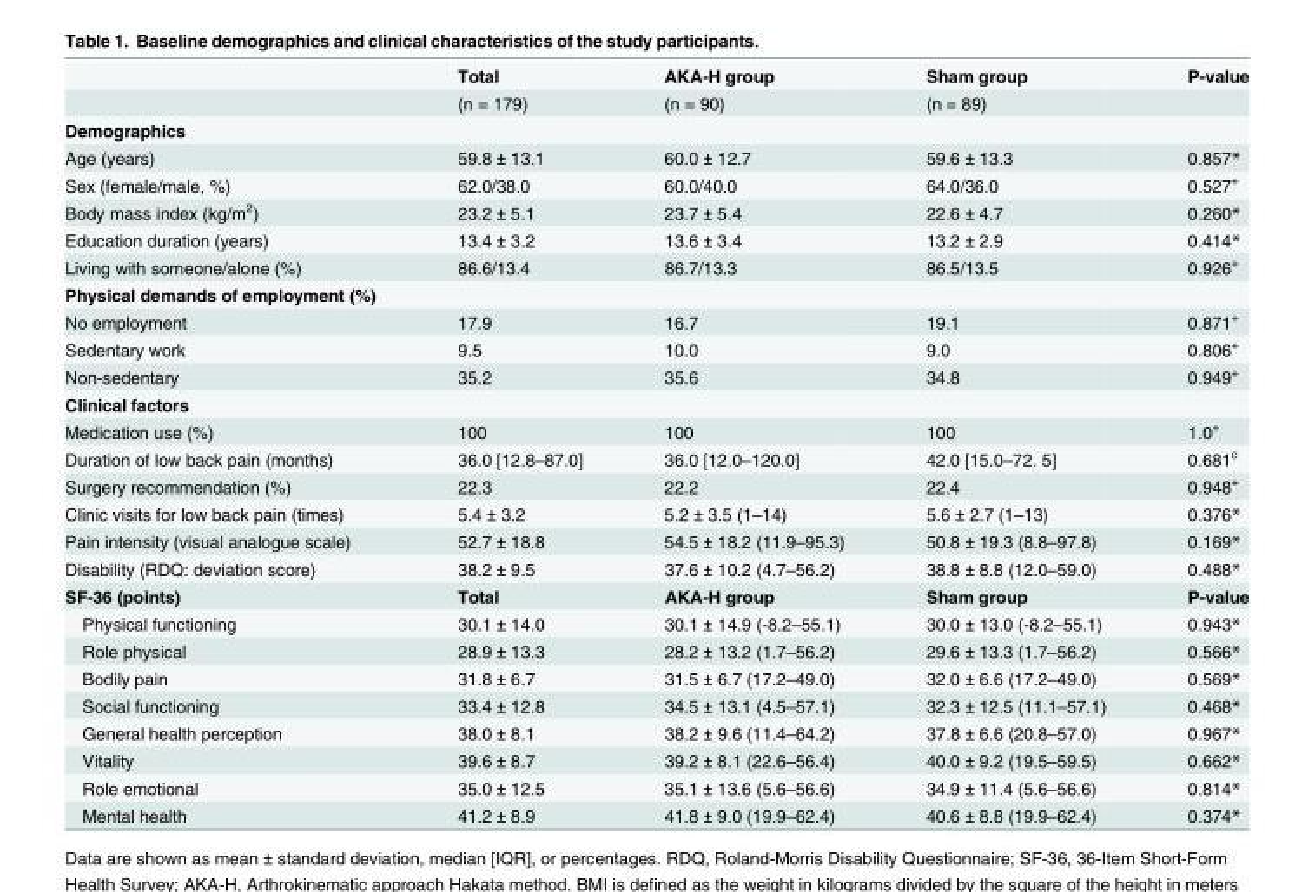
<table><thead><tr><td></td><td>Total</td><td>AKA-H group</td><td>Sham group</td><td>P-value</td></tr></thead><tbody><tr><td></td><td>(n = 179)</td><td>(n = 90)</td><td>(n = 89)</td><td></td></tr><tr><td colspan="5">Demographics</td></tr><tr><td>Age (years)</td><td>59.8 ± 13.1</td><td>60.0 ± 12.7</td><td>59.6 ± 13.3</td><td>0.857*</td></tr><tr><td>Sex (female/male, %)</td><td>62.0/38.0</td><td>60.0/40.0</td><td>64.0/36.0</td><td>0.527<sup>+</sup></td></tr><tr><td>Body mass index (kg/m<sup>2</sup>)</td><td>23.2 ± 5.1</td><td>23.7 ± 5.4</td><td>22.6 ± 4.7</td><td>0.260*</td></tr><tr><td>Education duration (years)</td><td>13.4 ± 3.2</td><td>13.6 ± 3.4</td><td>13.2 ± 2.9</td><td>0.414*</td></tr><tr><td>Living with someone/alone (%)</td><td>86.6/13.4</td><td>86.7/13.3</td><td>86.5/13.5</td><td>0.926<sup>+</sup></td></tr><tr><td colspan="5">Physical demands of employment (%)</td></tr><tr><td>No employment</td><td>17.9</td><td>16.7</td><td>19.1</td><td>0.871<sup>+</sup></td></tr><tr><td>Sedentary work</td><td>9.5</td><td>10.0</td><td>9.0</td><td>0.806<sup>+</sup></td></tr><tr><td>Non-sedentary</td><td>35.2</td><td>35.6</td><td>34.8</td><td>0.949<sup>+</sup></td></tr><tr><td colspan="5">Clinical factors</td></tr><tr><td>Medication use (%)</td><td>100</td><td>100</td><td>100</td><td>1.0<sup>+</sup></td></tr><tr><td>Duration of low back pain (months)</td><td>36.0 [12.8–87.0]</td><td>36.0 [12.0–120.0]</td><td>42.0 [15.0–72. 5]</td><td>0.681<sup>c</sup></td></tr><tr><td>Surgery recommendation (%)</td><td>22.3</td><td>22.2</td><td>22.4</td><td>0.948<sup>+</sup></td></tr><tr><td>Clinic visits for low back pain (times)</td><td>5.4 ± 3.2</td><td>5.2 ± 3.5 (1–14)</td><td>5.6 ± 2.7 (1–13)</td><td>0.376*</td></tr><tr><td>Pain intensity (visual analogue scale)</td><td>52.7 ± 18.8</td><td>54.5 ± 18.2 (11.9–95.3)</td><td>50.8 ± 19.3 (8.8–97.8)</td><td>0.169*</td></tr><tr><td>Disability (RDQ: deviation score)</td><td>38.2 ± 9.5</td><td>37.6 ± 10.2 (4.7–56.2)</td><td>38.8 ± 8.8 (12.0–59.0)</td><td>0.488*</td></tr><tr><td>SF-36 (points)</td><td>Total</td><td>AKA-H group</td><td>Sham group</td><td>P-value</td></tr><tr><td>Physical functioning</td><td>30.1 ± 14.0</td><td>30.1 ± 14.9 (-8.2–55.1)</td><td>30.0 ± 13.0 (-8.2–55.1)</td><td>0.943*</td></tr><tr><td>Role physical</td><td>28.9 ± 13.3</td><td>28.2 ± 13.2 (1.7–56.2)</td><td>29.6 ± 13.3 (1.7–56.2)</td><td>0.566*</td></tr><tr><td>Bodily pain</td><td>31.8 ± 6.7</td><td>31.5 ± 6.7 (17.2–49.0)</td><td>32.0 ± 6.6 (17.2–49.0)</td><td>0.569*</td></tr><tr><td>Social functioning</td><td>33.4 ± 12.8</td><td>34.5 ± 13.1 (4.5–57.1)</td><td>32.3 ± 12.5 (11.1–57.1)</td><td>0.468*</td></tr><tr><td>General health perception</td><td>38.0 ± 8.1</td><td>38.2 ± 9.6 (11.4–64.2)</td><td>37.8 ± 6.6 (20.8–57.0)</td><td>0.967*</td></tr><tr><td>Vitality</td><td>39.6 ± 8.7</td><td>39.2 ± 8.1 (22.6–56.4)</td><td>40.0 ± 9.2 (19.5–59.5)</td><td>0.662*</td></tr><tr><td>Role emotional</td><td>35.0 ± 12.5</td><td>35.1 ± 13.6 (5.6–56.6)</td><td>34.9 ± 11.4 (5.6–56.6)</td><td>0.814*</td></tr><tr><td>Mental health</td><td>41.2 ± 8.9</td><td>41.8 ± 9.0 (19.9–62.4)</td><td>40.6 ± 8.8 (19.9–62.4)</td><td>0.374*</td></tr></tbody></table>